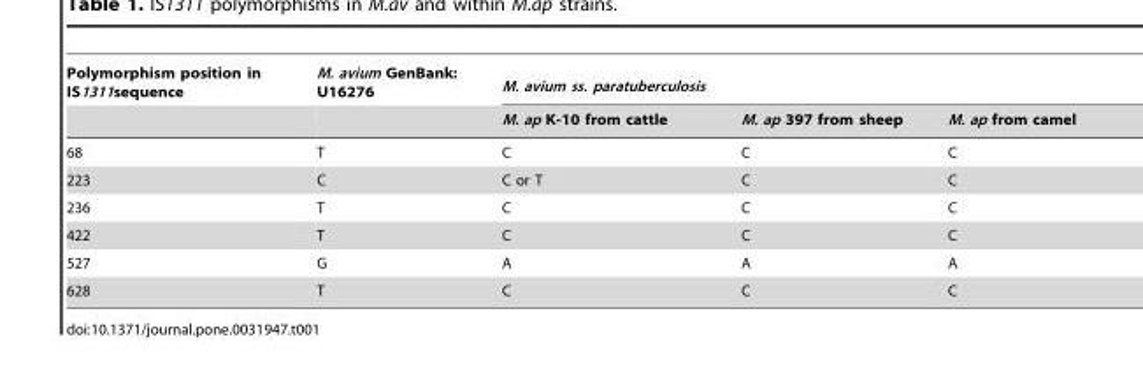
<table><thead><tr><td rowspan="2">Polymorphism position in IS1311sequence</td><td rowspan="2">M. avium GenBank: U16276</td><td colspan="3">M. avium ss. paratuberculosis</td></tr><tr><td>M. ap K-10 from cattle</td><td>M. ap 397 from sheep</td><td>M. ap from camel</td></tr></thead><tbody><tr><td>68</td><td>T</td><td>C</td><td>C</td><td>C</td></tr><tr><td>223</td><td>C</td><td>C or T</td><td>C</td><td>C</td></tr><tr><td>236</td><td>T</td><td>C</td><td>C</td><td>C</td></tr><tr><td>422</td><td>T</td><td>C</td><td>C</td><td>C</td></tr><tr><td>527</td><td>G</td><td>A</td><td>A</td><td>A</td></tr><tr><td>628</td><td>T</td><td>C</td><td>C</td><td>C</td></tr></tbody></table>